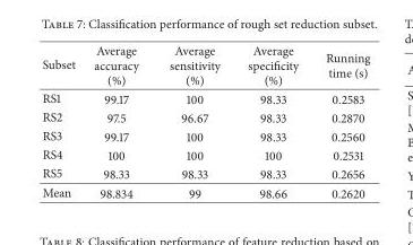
<table><thead><tr><td>Subset</td><td>Average accuracy (%)</td><td>Average sensitivity (%)</td><td>Average specificity (%)</td><td>Running time (s)</td></tr></thead><tbody><tr><td>RS1</td><td>99.17</td><td>100</td><td>98.33</td><td>0.2583</td></tr><tr><td>RS2</td><td>97.5</td><td>96.67</td><td>98.33</td><td>0.2870</td></tr><tr><td>RS3</td><td>99.17</td><td>100</td><td>98.33</td><td>0.2560</td></tr><tr><td>RS4</td><td>100</td><td>100</td><td>100</td><td>0.2531</td></tr><tr><td>RS5</td><td>98.33</td><td>98.33</td><td>98.33</td><td>0.2656</td></tr><tr><td>Mean</td><td>98.834</td><td>99</td><td>98.66</td><td>0.2620</td></tr></tbody></table>